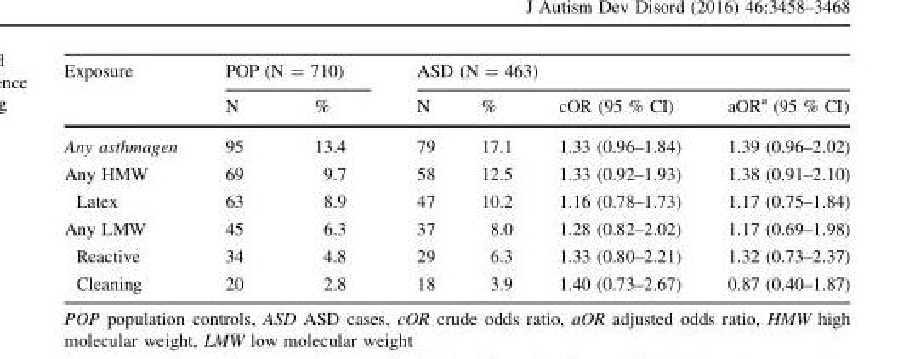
<table><thead><tr><td rowspan="2">Exposure</td><td colspan="2">POP (N = 710)</td><td colspan="4">ASD (N = 463)</td></tr><tr><td>N</td><td>%</td><td>N</td><td>%</td><td>cOR (95 % CI)</td><td>aOR<sup>a</sup> (95 % CI)</td></tr></thead><tbody><tr><td>Any asthmagen</td><td>95</td><td>13.4</td><td>79</td><td>17.1</td><td>1.33 (0.96–1.84)</td><td>1.39 (0.96–2.02)</td></tr><tr><td>Any HMW</td><td>69</td><td>9.7</td><td>58</td><td>12.5</td><td>1.33 (0.92–1.93)</td><td>1.38 (0.91–2.10)</td></tr><tr><td>Latex</td><td>63</td><td>8.9</td><td>47</td><td>10.2</td><td>1.16 (0.78–1.73)</td><td>1.17 (0.75–1.84)</td></tr><tr><td>Any LMW</td><td>45</td><td>6.3</td><td>37</td><td>8.0</td><td>1.28 (0.82–2.02)</td><td>1.17 (0.69–1.98)</td></tr><tr><td>Reactive</td><td>34</td><td>4.8</td><td>29</td><td>6.3</td><td>1.33 (0.80–2.21)</td><td>1.32 (0.73–2.37)</td></tr><tr><td>Cleaning</td><td>20</td><td>2.8</td><td>18</td><td>3.9</td><td>1.40 (0.73–2.67)</td><td>0.87 (0.40–1.87)</td></tr></tbody></table>